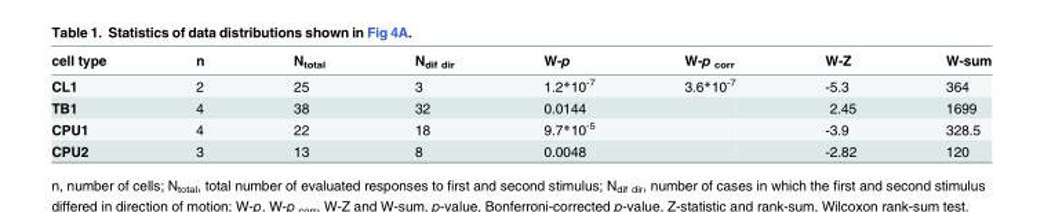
<table><thead><tr><td>cell type</td><td>n</td><td>N<sub>total</sub></td><td>N<sub>dif dir</sub></td><td>W-p</td><td>W-p <sub>corr</sub></td><td>W-Z</td><td>W-sum</td></tr></thead><tbody><tr><td>CL1</td><td>2</td><td>25</td><td>3</td><td>1.2*10<sup>-7</sup></td><td>3.6*10<sup>-7</sup></td><td>-5.3</td><td>364</td></tr><tr><td>TB1</td><td>4</td><td>38</td><td>32</td><td>0.0144</td><td></td><td>2.45</td><td>1699</td></tr><tr><td>CPU1</td><td>4</td><td>22</td><td>18</td><td>9.7*10<sup>-5</sup></td><td></td><td>-3.9</td><td>328.5</td></tr><tr><td>CPU2</td><td>3</td><td>13</td><td>8</td><td>0.0048</td><td></td><td>-2.82</td><td>120</td></tr></tbody></table>